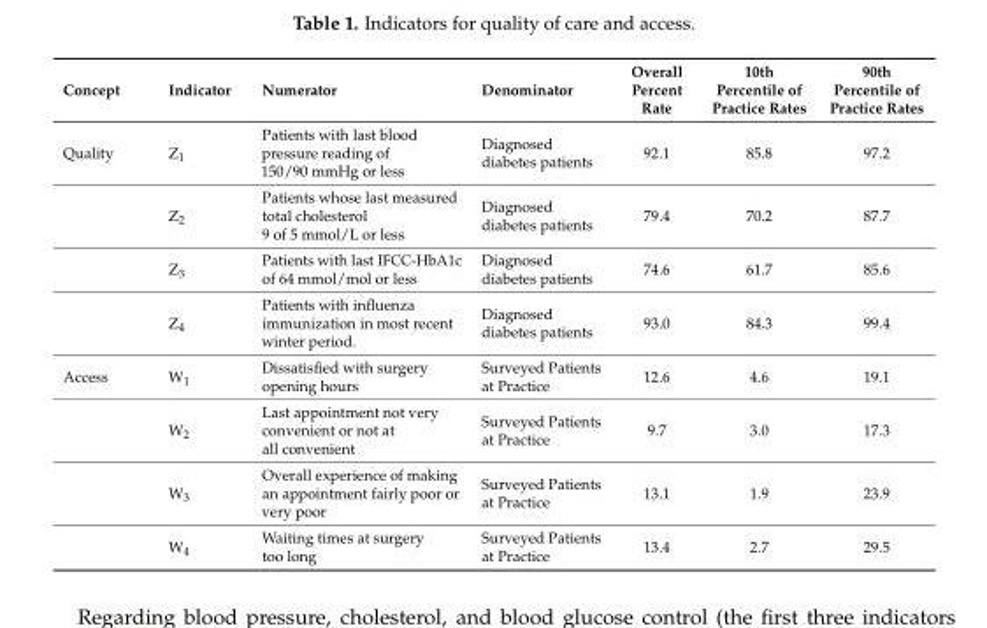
<table><thead><tr><td>Concept</td><td>Indicator</td><td>Numerator</td><td>Denominator</td><td>Overall Percent Rate</td><td>10th Percentile of Practice Rates</td><td>90th Percentile of Practice Rates</td></tr></thead><tbody><tr><td rowspan="4">Quality</td><td>Z<sub>1</sub></td><td>Patients with last blood pressure reading of 150/90 mmHg or less</td><td>Diagnosed diabetes patients</td><td>92.1</td><td>85.8</td><td>97.2</td></tr><tr><td>Z<sub>2</sub></td><td>Patients whose last measured total cholesterol 9 of 5 mmol/L or less</td><td>Diagnosed diabetes patients</td><td>79.4</td><td>70.2</td><td>87.7</td></tr><tr><td>Z<sub>3</sub></td><td>Patients with last IFCC-HbA1c of 64 mmol/mol or less</td><td>Diagnosed diabetes patients</td><td>74.6</td><td>61.7</td><td>85.6</td></tr><tr><td>Z<sub>4</sub></td><td>Patients with influenza immunization in most recent winter period.</td><td>Diagnosed diabetes patients</td><td>93.0</td><td>84.3</td><td>99.4</td></tr><tr><td rowspan="4">Access</td><td>W<sub>1</sub></td><td>Dissatisfied with surgery opening hours</td><td>Surveyed Patients at Practice</td><td>12.6</td><td>4.6</td><td>19.1</td></tr><tr><td>W<sub>2</sub></td><td>Last appointment not very convenient or not at all convenient</td><td>Surveyed Patients at Practice</td><td>9.7</td><td>3.0</td><td>17.3</td></tr><tr><td>W<sub>3</sub></td><td>Overall experience of making an appointment fairly poor or very poor</td><td>Surveyed Patients at Practice</td><td>13.1</td><td>1.9</td><td>23.9</td></tr><tr><td>W<sub>4</sub></td><td>Waiting times at surgery too long</td><td>Surveyed Patients at Practice</td><td>13.4</td><td>2.7</td><td>29.5</td></tr></tbody></table>